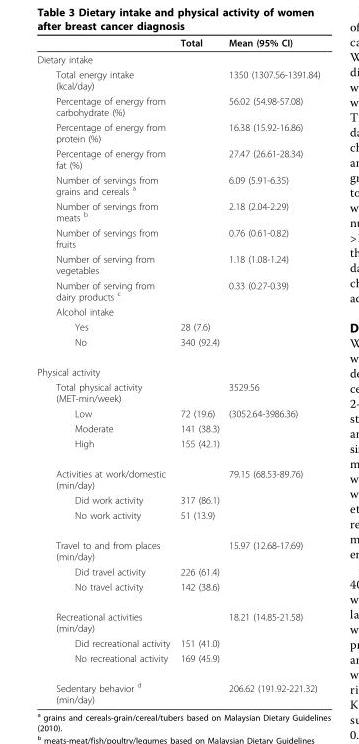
<table><thead><tr><td></td><td>Total</td><td>Mean (95% CI)</td></tr></thead><tbody><tr><td colspan="3">Dietary intake</td></tr><tr><td>Total energy intake (kcal/day)</td><td></td><td>1350 (1307.56-1391.84)</td></tr><tr><td>Percentage of energy from carbohydrate (%)</td><td></td><td>56.02 (54.98-57.08)</td></tr><tr><td>Percentage of energy from protein (%)</td><td></td><td>16.38 (15.92-16.86)</td></tr><tr><td>Percentage of energy from fat (%)</td><td></td><td>27.47 (26.61-28.34)</td></tr><tr><td>Number of servings from grains and cereals <sup>a</sup></td><td></td><td>6.09 (5.91-6.35)</td></tr><tr><td>Number of servings from meats <sup>b</sup></td><td></td><td>2.18 (2.04-2.29)</td></tr><tr><td>Number of servings from fruits</td><td></td><td>0.76 (0.61-0.82)</td></tr><tr><td>Number of serving from vegetables</td><td></td><td>1.18 (1.08-1.24)</td></tr><tr><td>Number of serving from dairy products <sup>c</sup></td><td></td><td>0.33 (0.27-0.39)</td></tr><tr><td colspan="3">Alcohol intake</td></tr><tr><td>Yes</td><td>28 (7.6)</td><td></td></tr><tr><td>No</td><td>340 (92.4)</td><td></td></tr><tr><td colspan="3">Physical activity</td></tr><tr><td>Total physical activity (MET-min/week)</td><td></td><td>3529.56</td></tr><tr><td>Low</td><td>72 (19.6)</td><td>(3052.64-3986.36)</td></tr><tr><td>Moderate</td><td>141 (38.3)</td><td></td></tr><tr><td>High</td><td>155 (42.1)</td><td></td></tr><tr><td>Activities at work/domestic (min/day)</td><td></td><td>79.15 (68.53-89.76)</td></tr><tr><td>Did work activity</td><td>317 (86.1)</td><td></td></tr><tr><td>No work activity</td><td>51 (13.9)</td><td></td></tr><tr><td>Travel to and from places (min/day)</td><td></td><td>15.97 (12.68-17.69)</td></tr><tr><td>Did travel activity</td><td>226 (61.4)</td><td></td></tr><tr><td>No travel activity</td><td>142 (38.6)</td><td></td></tr><tr><td>Recreational activities (min/day)</td><td></td><td>18.21 (14.85-21.58)</td></tr><tr><td>Did recreational activity</td><td>151 (41.0)</td><td></td></tr><tr><td>No recreational activity</td><td>169 (45.9)</td><td></td></tr><tr><td>Sedentary behavior <sup>d</sup> (min/day)</td><td></td><td>206.62 (191.92-221.32)</td></tr></tbody></table>